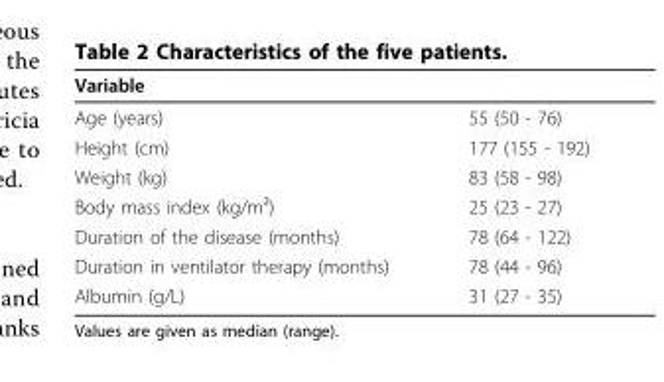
<table><thead><tr><td>Variable</td><td></td></tr></thead><tbody><tr><td>Age (years)</td><td>55 (50 - 76)</td></tr><tr><td>Height (cm)</td><td>177 (155 - 192)</td></tr><tr><td>Weight (kg)</td><td>83 (58 - 98)</td></tr><tr><td>Body mass index (kg/m²)</td><td>25 (23 - 27)</td></tr><tr><td>Duration of the disease (months)</td><td>78 (64 - 122)</td></tr><tr><td>Duration in ventilator therapy (months)</td><td>78 (44 - 96)</td></tr><tr><td>Albumin (g/L)</td><td>31 (27 - 35)</td></tr></tbody></table>